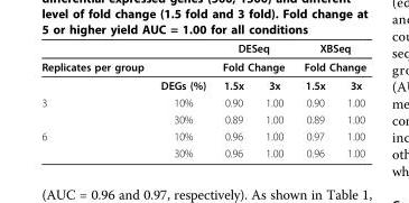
<table><thead><tr><td rowspan="3">Replicates per group</td><td rowspan="3">DEGs (%)</td><td rowspan="2" colspan="2">DESeq Fold Change</td><td rowspan="2" colspan="2">XBSeq Fold Change</td></tr><tr></tr><tr><td>1.5x</td><td>3x</td><td>1.5x</td><td>3x</td></tr></thead><tbody><tr><td rowspan="2">3</td><td>10%</td><td>0.90</td><td>1.00</td><td>0.90</td><td>1.00</td></tr><tr><td>30%</td><td>0.89</td><td>1.00</td><td>0.89</td><td>1.00</td></tr><tr><td rowspan="2">6</td><td>10%</td><td>0.96</td><td>1.00</td><td>0.97</td><td>1.00</td></tr><tr><td>30%</td><td>0.96</td><td>1.00</td><td>0.96</td><td>1.00</td></tr></tbody></table>